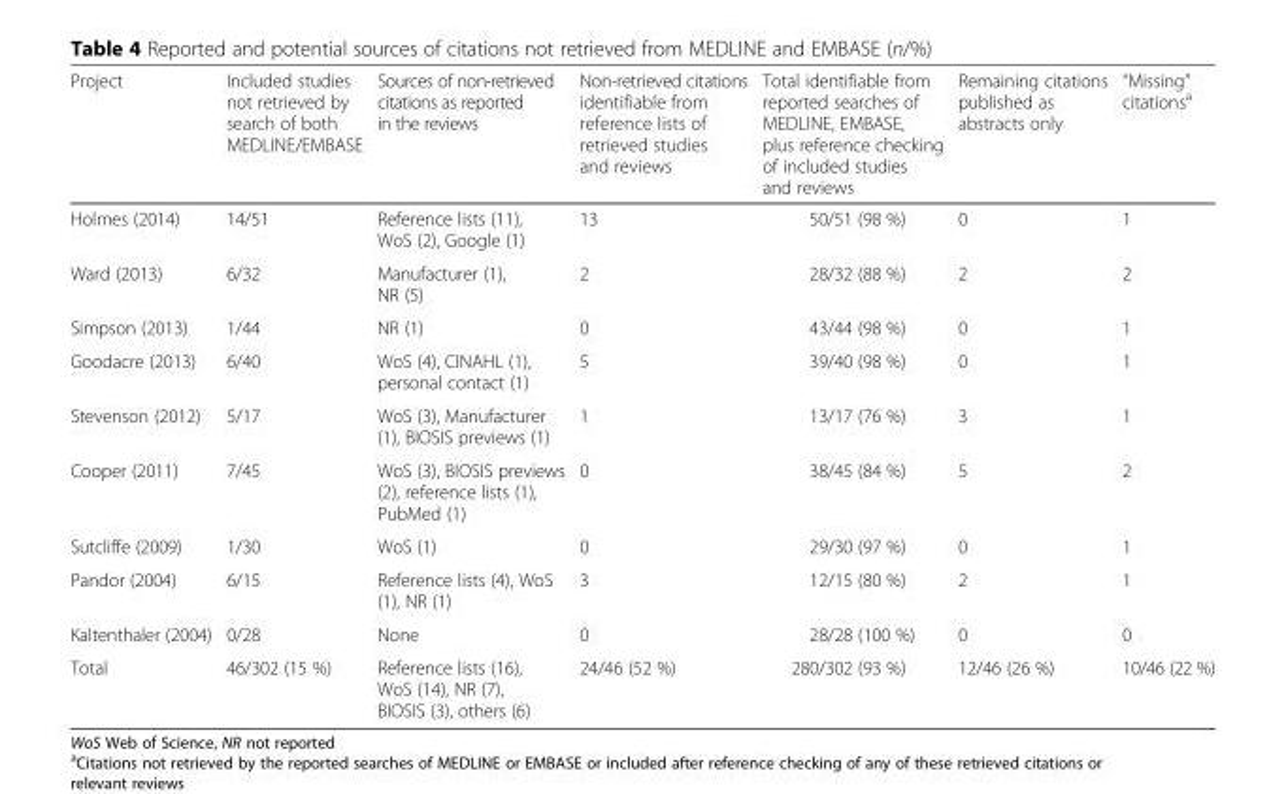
<table><thead><tr><td>Project</td><td>Included studies not retrieved by search of both MEDLINE/EMBASE</td><td>Sources of non-retrieved citations as reported in the reviews</td><td>Non-retrieved citations identifiable from reference lists of retrieved studies and reviews</td><td>Total identifiable from reported searches of MEDLINE, EMBASE, plus reference checking of included studies and reviews</td><td>Remaining citations published as abstracts only</td><td>“Missing” citations<sup>a</sup></td></tr></thead><tbody><tr><td>Holmes (2014)</td><td>14/51</td><td>Reference lists (11), WoS (2), Google (1)</td><td>13</td><td>50/51 (98 %)</td><td>0</td><td>1</td></tr><tr><td>Ward (2013)</td><td>6/32</td><td>Manufacturer (1), NR (5)</td><td>2</td><td>28/32 (88 %)</td><td>2</td><td>2</td></tr><tr><td>Simpson (2013)</td><td>1/44</td><td>NR (1)</td><td>0</td><td>43/44 (98 %)</td><td>0</td><td>1</td></tr><tr><td>Goodacre (2013)</td><td>6/40</td><td>WoS (4), CINAHL (1), personal contact (1)</td><td>5</td><td>39/40 (98 %)</td><td>0</td><td>1</td></tr><tr><td>Stevenson (2012)</td><td>5/17</td><td>WoS (3), Manufacturer (1), BIOSIS previews (1)</td><td>1</td><td>13/17 (76 %)</td><td>3</td><td>1</td></tr><tr><td>Cooper (2011)</td><td>7/45</td><td>WoS (3), BIOSIS previews (2), reference lists (1), PubMed (1)</td><td>0</td><td>38/45 (84 %)</td><td>5</td><td>2</td></tr><tr><td>Sutcliffe (2009)</td><td>1/30</td><td>WoS (1)</td><td>0</td><td>29/30 (97 %)</td><td>0</td><td>1</td></tr><tr><td>Pandor (2004)</td><td>6/15</td><td>Reference lists (4), WoS (1), NR (1)</td><td>3</td><td>12/15 (80 %)</td><td>2</td><td>1</td></tr><tr><td>Kaltenthaler (2004)</td><td>0/28</td><td>None</td><td>0</td><td>28/28 (100 %)</td><td>0</td><td>0</td></tr><tr><td>Total</td><td>46/302 (15 %)</td><td>Reference lists (16), WoS (14), NR (7), BIOSIS (3), others (6)</td><td>24/46 (52 %)</td><td>280/302 (93 %)</td><td>12/46 (26 %)</td><td>10/46 (22 %)</td></tr></tbody></table>